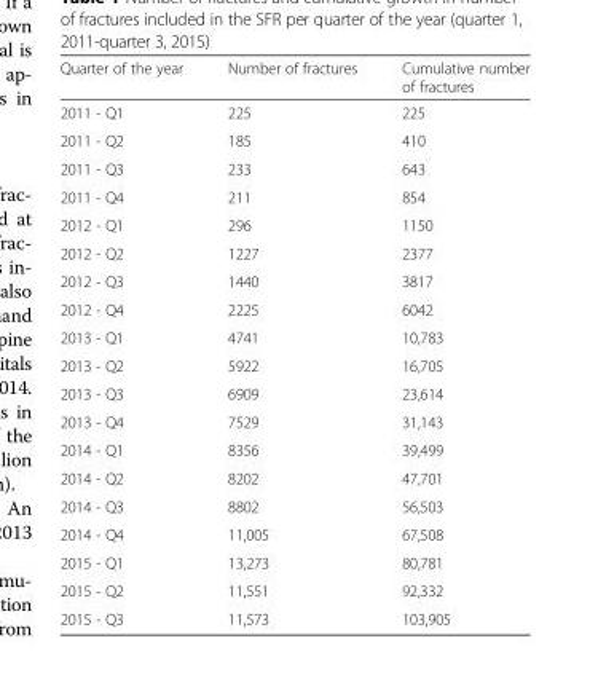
<table><thead><tr><td>Quarter of the year</td><td>Number of fractures</td><td>Cumulative number of fractures</td></tr></thead><tbody><tr><td>2011 - Q1</td><td>225</td><td>225</td></tr><tr><td>2011 - Q2</td><td>185</td><td>410</td></tr><tr><td>2011 - Q3</td><td>233</td><td>643</td></tr><tr><td>2011 - Q4</td><td>211</td><td>854</td></tr><tr><td>2012 - Q1</td><td>296</td><td>1150</td></tr><tr><td>2012 - Q2</td><td>1227</td><td>2377</td></tr><tr><td>2012 - Q3</td><td>1440</td><td>3817</td></tr><tr><td>2012 - Q4</td><td>2225</td><td>6042</td></tr><tr><td>2013 - Q1</td><td>4741</td><td>10,783</td></tr><tr><td>2013 - Q2</td><td>5922</td><td>16,705</td></tr><tr><td>2013 - Q3</td><td>6909</td><td>23,614</td></tr><tr><td>2013 - Q4</td><td>7529</td><td>31,143</td></tr><tr><td>2014 - Q1</td><td>8356</td><td>39,499</td></tr><tr><td>2014 - Q2</td><td>8202</td><td>47,701</td></tr><tr><td>2014 - Q3</td><td>8802</td><td>56,503</td></tr><tr><td>2014 - Q4</td><td>11,005</td><td>67,508</td></tr><tr><td>2015 - Q1</td><td>13,273</td><td>80,781</td></tr><tr><td>2015 - Q2</td><td>11,551</td><td>92,332</td></tr><tr><td>2015 - Q3</td><td>11,573</td><td>103,905</td></tr></tbody></table>